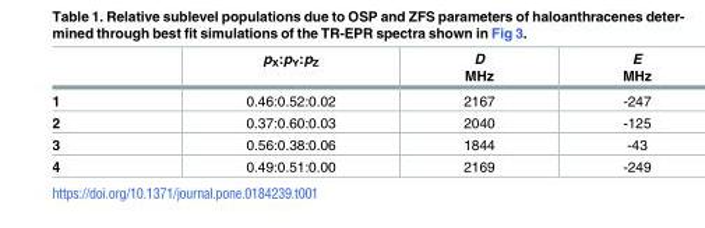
<table><thead><tr><td></td><td>p<sub>X</sub>:p<sub>Y</sub>:p<sub>Z</sub></td><td>D MHz</td><td>E MHz</td></tr></thead><tbody><tr><td>1</td><td>0.46:0.52:0.02</td><td>2167</td><td>-247</td></tr><tr><td>2</td><td>0.37:0.60:0.03</td><td>2040</td><td>-125</td></tr><tr><td>3</td><td>0.56:0.38:0.06</td><td>1844</td><td>-43</td></tr><tr><td>4</td><td>0.49:0.51:0.00</td><td>2169</td><td>-249</td></tr></tbody></table>